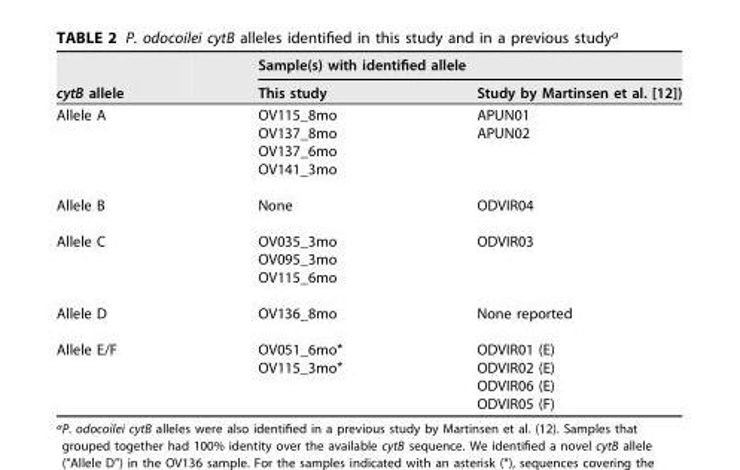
<table><thead><tr><td rowspan="2">cytB allele</td><td colspan="2">Sample(s) with identified allele</td></tr><tr><td>This study</td><td>Study by Martinsen et al. [12])</td></tr></thead><tbody><tr><td rowspan="4">Allele A</td><td>OV115_8mo</td><td>APUN01</td></tr><tr><td>OV137_8mo</td><td rowspan="3">APUN02</td></tr><tr><td>OV137_6mo</td></tr><tr><td>OV141_3mo</td></tr><tr><td>Allele B</td><td>None</td><td>ODVIR04</td></tr><tr><td rowspan="3">Allele C</td><td>OV035_3mo</td><td rowspan="3">ODVIR03</td></tr><tr><td>OV095_3mo</td></tr><tr><td>OV115_6mo</td></tr><tr><td>Allele D</td><td>OV136_8mo</td><td>None reported</td></tr><tr><td rowspan="4">Allele E/F</td><td>OV051_6mo*</td><td>ODVIR01 (E)</td></tr><tr><td rowspan="3">OV115_3mo*</td><td>ODVIR02 (E)</td></tr><tr><td>ODVIR06 (E)</td></tr><tr><td>ODVIR05 (F)</td></tr></tbody></table>